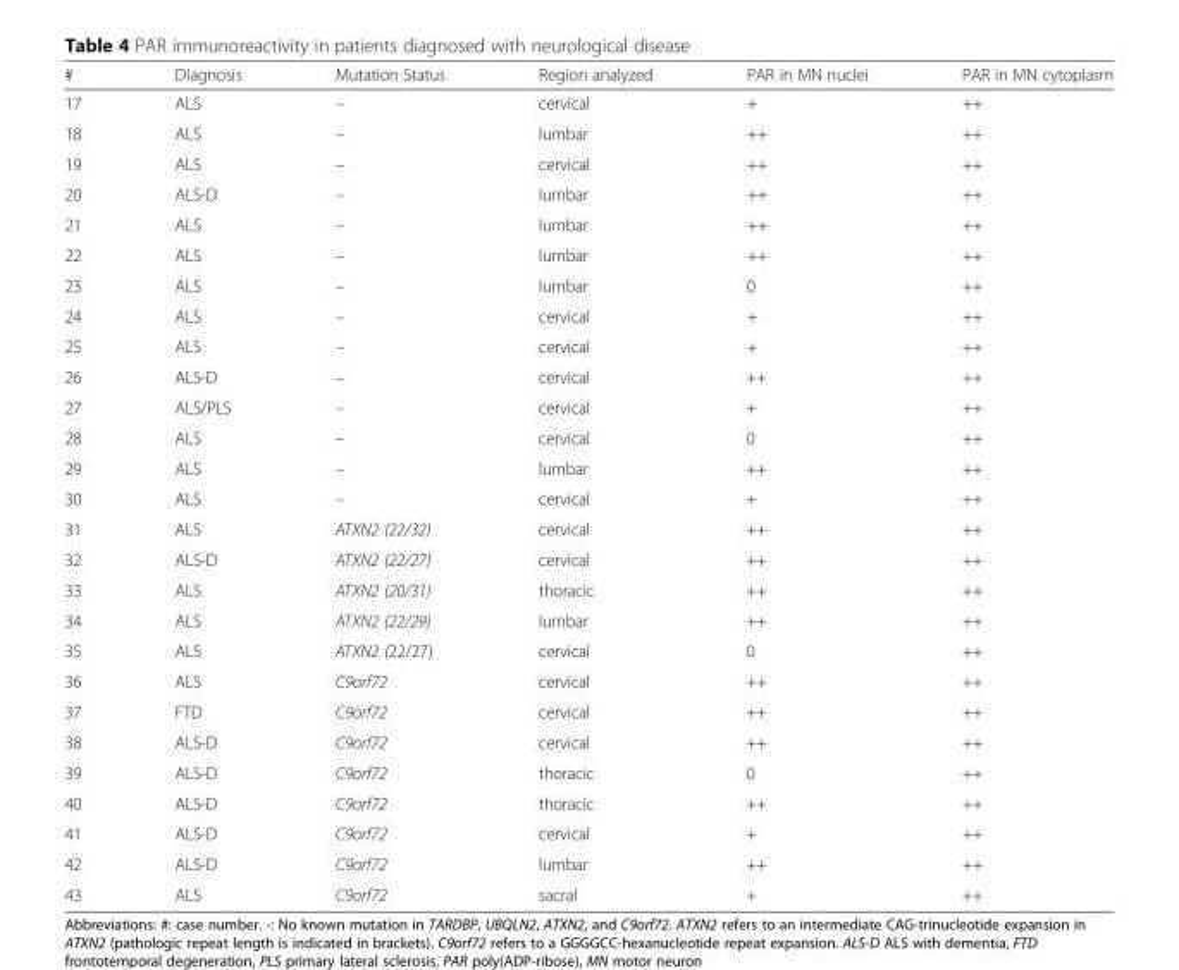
<table><thead><tr><td>#</td><td>Diagnosis</td><td>Mutation Status</td><td>Region analyzed</td><td>PAR in MN nuclei</td><td>PAR in MN cytoplasm</td></tr></thead><tbody><tr><td>17</td><td>ALS</td><td>–</td><td>cervical</td><td>+</td><td>++</td></tr><tr><td>18</td><td>ALS</td><td>–</td><td>lumbar</td><td>++</td><td>++</td></tr><tr><td>19</td><td>ALS</td><td>–</td><td>cervical</td><td>++</td><td>++</td></tr><tr><td>20</td><td>ALS-D</td><td>–</td><td>lumbar</td><td>++</td><td>++</td></tr><tr><td>21</td><td>ALS</td><td>–</td><td>lumbar</td><td>++</td><td>++</td></tr><tr><td>22</td><td>ALS</td><td>–</td><td>lumbar</td><td>++</td><td>++</td></tr><tr><td>23</td><td>ALS</td><td>–</td><td>lumbar</td><td>0</td><td>++</td></tr><tr><td>24</td><td>ALS</td><td>–</td><td>cervical</td><td>+</td><td>++</td></tr><tr><td>25</td><td>ALS</td><td>–</td><td>cervical</td><td>+</td><td>++</td></tr><tr><td>26</td><td>ALS-D</td><td>–</td><td>cervical</td><td>++</td><td>++</td></tr><tr><td>27</td><td>ALS/PLS</td><td>–</td><td>cervical</td><td>+</td><td>++</td></tr><tr><td>28</td><td>ALS</td><td>–</td><td>cervical</td><td>0</td><td>++</td></tr><tr><td>29</td><td>ALS</td><td>–</td><td>lumbar</td><td>++</td><td>++</td></tr><tr><td>30</td><td>ALS</td><td>–</td><td>cervical</td><td>+</td><td>++</td></tr><tr><td>31</td><td>ALS</td><td>ATXN2 (22/32)</td><td>cervical</td><td>++</td><td>++</td></tr><tr><td>32</td><td>ALS-D</td><td>ATXN2 (22/27)</td><td>cervical</td><td>++</td><td>++</td></tr><tr><td>33</td><td>ALS</td><td>ATXN2 (20/31)</td><td>thoracic</td><td>++</td><td>++</td></tr><tr><td>34</td><td>ALS</td><td>ATXN2 (22/29)</td><td>lumbar</td><td>++</td><td>++</td></tr><tr><td>35</td><td>ALS</td><td>ATXN2 (22/27)</td><td>cervical</td><td>0</td><td>++</td></tr><tr><td>36</td><td>ALS</td><td>C9orf72</td><td>cervical</td><td>++</td><td>++</td></tr><tr><td>37</td><td>FTD</td><td>C9orf72</td><td>cervical</td><td>++</td><td>++</td></tr><tr><td>38</td><td>ALS-D</td><td>C9orf72</td><td>cervical</td><td>++</td><td>++</td></tr><tr><td>39</td><td>ALS-D</td><td>C9orf72</td><td>thoracic</td><td>0</td><td>++</td></tr><tr><td>40</td><td>ALS-D</td><td>C9orf72</td><td>thoracic</td><td>++</td><td>++</td></tr><tr><td>41</td><td>ALS-D</td><td>C9orf72</td><td>cervical</td><td>+</td><td>++</td></tr><tr><td>42</td><td>ALS-D</td><td>C9orf72</td><td>lumbar</td><td>++</td><td>++</td></tr><tr><td>43</td><td>ALS</td><td>C9orf72</td><td>sacral</td><td>+</td><td>++</td></tr></tbody></table>